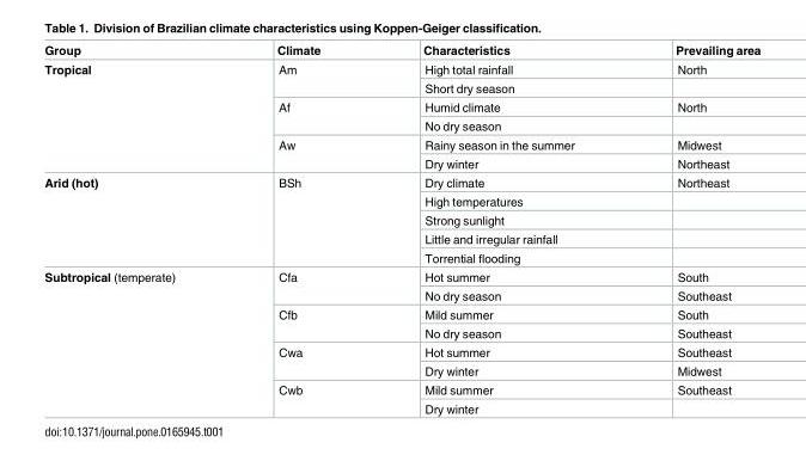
<table><thead><tr><td>Group</td><td>Climate</td><td>Characteristics</td><td>Prevailing area</td></tr></thead><tbody><tr><td rowspan="6">Tropical</td><td rowspan="2">Am</td><td>High total rainfall</td><td>North</td></tr><tr><td>Short dry season</td><td></td></tr><tr><td rowspan="2">Af</td><td>Humid climate</td><td>North</td></tr><tr><td>No dry season</td><td></td></tr><tr><td rowspan="2">Aw</td><td>Rainy season in the summer</td><td>Midwest</td></tr><tr><td>Dry winter</td><td>Northeast</td></tr><tr><td rowspan="5">Arid (hot)</td><td rowspan="5">BSh</td><td>Dry climate</td><td>Northeast</td></tr><tr><td>High temperatures</td><td></td></tr><tr><td>Strong sunlight</td><td></td></tr><tr><td>Little and irregular rainfall</td><td></td></tr><tr><td>Torrential flooding</td><td></td></tr><tr><td rowspan="8">Subtropical (temperate)</td><td rowspan="2">Cfa</td><td>Hot summer</td><td>South</td></tr><tr><td>No dry season</td><td>Southeast</td></tr><tr><td rowspan="2">Cfb</td><td>Mild summer</td><td>South</td></tr><tr><td>No dry season</td><td>Southeast</td></tr><tr><td rowspan="2">Cwa</td><td>Hot summer</td><td>Southeast</td></tr><tr><td>Dry winter</td><td>Midwest</td></tr><tr><td rowspan="2">Cwb</td><td>Mild summer</td><td>Southeast</td></tr><tr><td>Dry winter</td><td></td></tr></tbody></table>